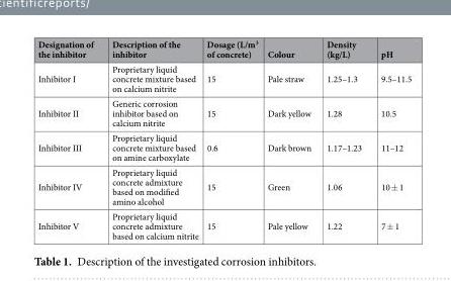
<table><thead><tr><td>Designation of the inhibitor</td><td>Description of the inhibitor</td><td>Dosage (L/m<sup>3</sup> of concrete)</td><td>Colour</td><td>Density (kg/L)</td><td>pH</td></tr></thead><tbody><tr><td>Inhibitor I</td><td>Proprietary liquid concrete mixture based on calcium nitrite</td><td>15</td><td>Pale straw</td><td>1.25–1.3</td><td>9.5–11.5</td></tr><tr><td>Inhibitor II</td><td>Generic corrosion inhibitor based on calcium nitrite</td><td>15</td><td>Dark yellow</td><td>1.28</td><td>10.5</td></tr><tr><td>Inhibitor III</td><td>Proprietary liquid concrete mixture based on amine carboxylate</td><td>0.6</td><td>Dark brown</td><td>1.17–1.23</td><td>11–12</td></tr><tr><td>Inhibitor IV</td><td>Proprietary liquid concrete admixture based on modified amino alcohol</td><td>15</td><td>Green</td><td>1.06</td><td>10 ± 1</td></tr><tr><td>Inhibitor V</td><td>Proprietary liquid concrete admixture based on calcium nitrite</td><td>15</td><td>Pale yellow</td><td>1.22</td><td>7 ± 1</td></tr></tbody></table>